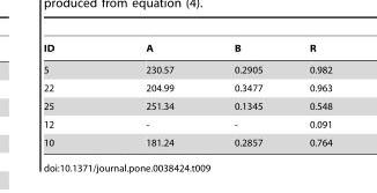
<table><thead><tr><td>ID</td><td>A</td><td>B</td><td>R</td></tr></thead><tbody><tr><td>5</td><td>230.57</td><td>0.2905</td><td>0.982</td></tr><tr><td>22</td><td>204.99</td><td>0.3477</td><td>0.963</td></tr><tr><td>25</td><td>251.34</td><td>0.1345</td><td>0.548</td></tr><tr><td>12</td><td>-</td><td>-</td><td>0.091</td></tr><tr><td>10</td><td>181.24</td><td>0.2857</td><td>0.764</td></tr></tbody></table>